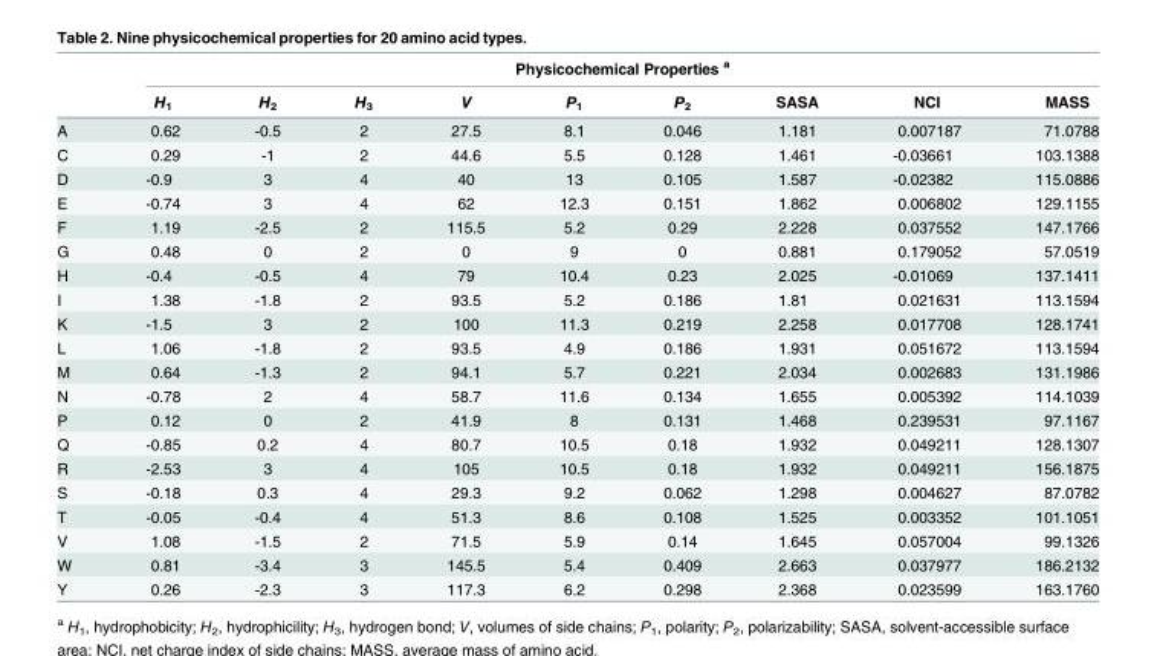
<table><thead><tr><td rowspan="2"></td><td colspan="9">Physicochemical Properties <sup>a</sup></td></tr><tr><td>H<sub>1</sub></td><td>H<sub>2</sub></td><td>H<sub>3</sub></td><td>V</td><td>P<sub>1</sub></td><td>P<sub>2</sub></td><td>SASA</td><td>NCI</td><td>MASS</td></tr></thead><tbody><tr><td>A</td><td>0.62</td><td>-0.5</td><td>2</td><td>27.5</td><td>8.1</td><td>0.046</td><td>1.181</td><td>0.007187</td><td>71.0788</td></tr><tr><td>C</td><td>0.29</td><td>-1</td><td>2</td><td>44.6</td><td>5.5</td><td>0.128</td><td>1.461</td><td>-0.03661</td><td>103.1388</td></tr><tr><td>D</td><td>-0.9</td><td>3</td><td>4</td><td>40</td><td>13</td><td>0.105</td><td>1.587</td><td>-0.02382</td><td>115.0886</td></tr><tr><td>E</td><td>-0.74</td><td>3</td><td>4</td><td>62</td><td>12.3</td><td>0.151</td><td>1.862</td><td>0.006802</td><td>129.1155</td></tr><tr><td>F</td><td>1.19</td><td>-2.5</td><td>2</td><td>115.5</td><td>5.2</td><td>0.29</td><td>2.228</td><td>0.037552</td><td>147.1766</td></tr><tr><td>G</td><td>0.48</td><td>0</td><td>2</td><td>0</td><td>9</td><td>0</td><td>0.881</td><td>0.179052</td><td>57.0519</td></tr><tr><td>H</td><td>-0.4</td><td>-0.5</td><td>4</td><td>79</td><td>10.4</td><td>0.23</td><td>2.025</td><td>-0.01069</td><td>137.1411</td></tr><tr><td>I</td><td>1.38</td><td>-1.8</td><td>2</td><td>93.5</td><td>5.2</td><td>0.186</td><td>1.81</td><td>0.021631</td><td>113.1594</td></tr><tr><td>K</td><td>-1.5</td><td>3</td><td>2</td><td>100</td><td>11.3</td><td>0.219</td><td>2.258</td><td>0.017708</td><td>128.1741</td></tr><tr><td>L</td><td>1.06</td><td>-1.8</td><td>2</td><td>93.5</td><td>4.9</td><td>0.186</td><td>1.931</td><td>0.051672</td><td>113.1594</td></tr><tr><td>M</td><td>0.64</td><td>-1.3</td><td>2</td><td>94.1</td><td>5.7</td><td>0.221</td><td>2.034</td><td>0.002683</td><td>131.1986</td></tr><tr><td>N</td><td>-0.78</td><td>2</td><td>4</td><td>58.7</td><td>11.6</td><td>0.134</td><td>1.655</td><td>0.005392</td><td>114.1039</td></tr><tr><td>P</td><td>0.12</td><td>0</td><td>2</td><td>41.9</td><td>8</td><td>0.131</td><td>1.468</td><td>0.239531</td><td>97.1167</td></tr><tr><td>Q</td><td>-0.85</td><td>0.2</td><td>4</td><td>80.7</td><td>10.5</td><td>0.18</td><td>1.932</td><td>0.049211</td><td>128.1307</td></tr><tr><td>R</td><td>-2.53</td><td>3</td><td>4</td><td>105</td><td>10.5</td><td>0.18</td><td>1.932</td><td>0.049211</td><td>156.1875</td></tr><tr><td>S</td><td>-0.18</td><td>0.3</td><td>4</td><td>29.3</td><td>9.2</td><td>0.062</td><td>1.298</td><td>0.004627</td><td>87.0782</td></tr><tr><td>T</td><td>-0.05</td><td>-0.4</td><td>4</td><td>51.3</td><td>8.6</td><td>0.108</td><td>1.525</td><td>0.003352</td><td>101.1051</td></tr><tr><td>V</td><td>1.08</td><td>-1.5</td><td>2</td><td>71.5</td><td>5.9</td><td>0.14</td><td>1.645</td><td>0.057004</td><td>99.1326</td></tr><tr><td>W</td><td>0.81</td><td>-3.4</td><td>3</td><td>145.5</td><td>5.4</td><td>0.409</td><td>2.663</td><td>0.037977</td><td>186.2132</td></tr><tr><td>Y</td><td>0.26</td><td>-2.3</td><td>3</td><td>117.3</td><td>6.2</td><td>0.298</td><td>2.368</td><td>0.023599</td><td>163.1760</td></tr></tbody></table>